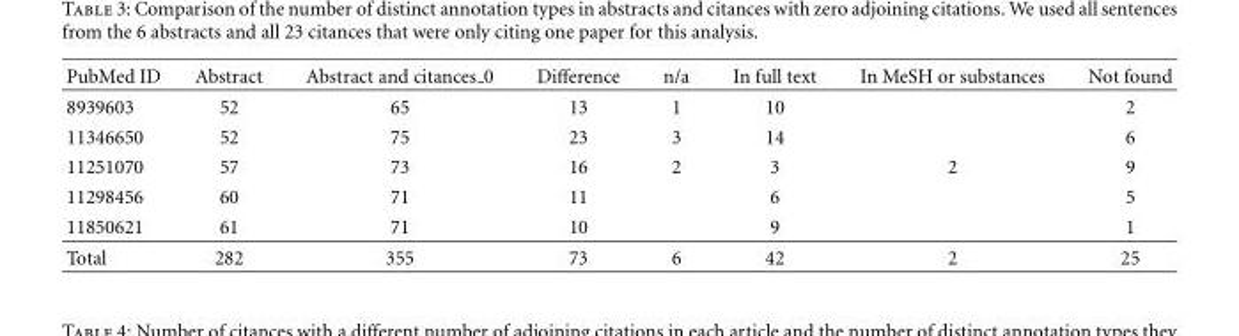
<table><thead><tr><td>PubMed ID</td><td>Abstract</td><td>Abstract and citances 0</td><td>Difference</td><td>n/a</td><td>In full text</td><td>In MeSH or substances</td><td>Not found</td></tr></thead><tbody><tr><td>8939603</td><td>52</td><td>65</td><td>13</td><td>1</td><td>10</td><td></td><td>2</td></tr><tr><td>11346650</td><td>52</td><td>75</td><td>23</td><td>3</td><td>14</td><td></td><td>6</td></tr><tr><td>11251070</td><td>57</td><td>73</td><td>16</td><td>2</td><td>3</td><td>2</td><td>9</td></tr><tr><td>11298456</td><td>60</td><td>71</td><td>11</td><td></td><td>6</td><td></td><td>5</td></tr><tr><td>11850621</td><td>61</td><td>71</td><td>10</td><td></td><td>9</td><td></td><td>1</td></tr><tr><td>Total</td><td>282</td><td>355</td><td>73</td><td>6</td><td>42</td><td>2</td><td>25</td></tr></tbody></table>